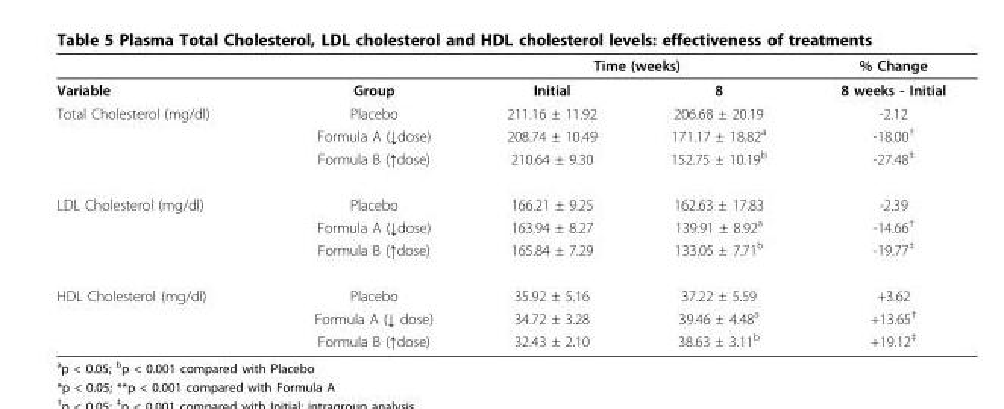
<table><thead><tr><td rowspan="2">Variable</td><td rowspan="2">Group</td><td colspan="2">Time (weeks)</td><td rowspan="2">% Change 8 weeks - Initial</td></tr><tr><td>Initial</td><td>8</td></tr></thead><tbody><tr><td rowspan="3">Total Cholesterol (mg/dl)</td><td>Placebo</td><td>211.16 ± 11.92</td><td>206.68 ± 20.19</td><td>-2.12</td></tr><tr><td>Formula A (↓dose)</td><td>208.74 ± 10.49</td><td>171.17 ± 18.82<sup>a</sup></td><td>-18.00<sup>†</sup></td></tr><tr><td>Formula B (↑dose)</td><td>210.64 ± 9.30</td><td>152.75 ± 10.19<sup>b</sup></td><td>-27.48<sup>‡</sup></td></tr><tr><td rowspan="3">LDL Cholesterol (mg/dl)</td><td>Placebo</td><td>166.21 ± 9.25</td><td>162.63 ± 17.83</td><td>-2.39</td></tr><tr><td>Formula A (↓dose)</td><td>163.94 ± 8.27</td><td>139.91 ± 8.92<sup>a</sup></td><td>-14.66<sup>†</sup></td></tr><tr><td>Formula B (↑dose)</td><td>165.84 ± 7.29</td><td>133.05 ± 7.71<sup>b</sup></td><td>-19.77<sup>‡</sup></td></tr><tr><td rowspan="3">HDL Cholesterol (mg/dl)</td><td>Placebo</td><td>35.92 ± 5.16</td><td>37.22 ± 5.59</td><td>+3.62</td></tr><tr><td>Formula A (↓ dose)</td><td>34.72 ± 3.28</td><td>39.46 ± 4.48<sup>a</sup></td><td>+13.65<sup>†</sup></td></tr><tr><td>Formula B (↑dose)</td><td>32.43 ± 2.10</td><td>38.63 ± 3.11<sup>b</sup></td><td>+19.12<sup>‡</sup></td></tr></tbody></table>